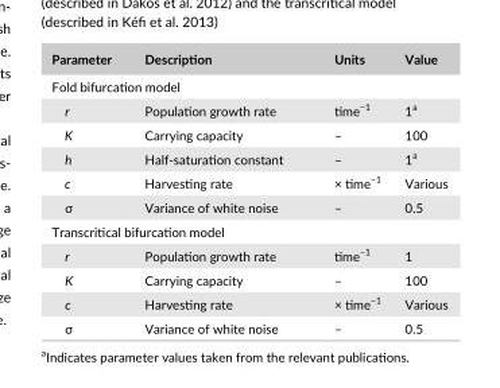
<table><thead><tr><td>Parameter</td><td>Description</td><td>Units</td><td>Value</td></tr></thead><tbody><tr><td colspan="4">Fold bifurcation model</td></tr><tr><td>r</td><td>Population growth rate</td><td>time<sup>−1</sup></td><td>1<sup>a</sup></td></tr><tr><td>K</td><td>Carrying capacity</td><td>–</td><td>100</td></tr><tr><td>h</td><td>Half- saturation constant</td><td>–</td><td>1<sup>a</sup></td></tr><tr><td>c</td><td>Harvesting rate</td><td>× time<sup>−1</sup></td><td>Various</td></tr><tr><td>σ</td><td>Variance of white noise</td><td>–</td><td>0.5</td></tr><tr><td colspan="4">Transcritical bifurcation model</td></tr><tr><td>r</td><td>Population growth rate</td><td>time<sup>−1</sup></td><td>1</td></tr><tr><td>K</td><td>Carrying capacity</td><td>–</td><td>100</td></tr><tr><td>c</td><td>Harvesting rate</td><td>× time<sup>−1</sup></td><td>Various</td></tr><tr><td>σ</td><td>Variance of white noise</td><td>–</td><td>0.5</td></tr></tbody></table>